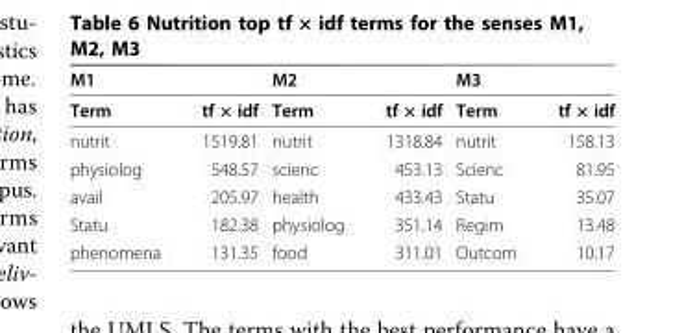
<table><thead><tr><td colspan="2">M1</td><td colspan="2">M2</td><td colspan="2">M3</td></tr><tr><td>Term</td><td>tf × idf</td><td>Term</td><td>tf × idf</td><td>Term</td><td>tf × idf</td></tr></thead><tbody><tr><td>nutrit</td><td>1519.81</td><td>nutrit</td><td>1318.84</td><td>nutrit</td><td>158.13</td></tr><tr><td>physiolog</td><td>548.57</td><td>scienc</td><td>453.13</td><td>Scienc</td><td>81.95</td></tr><tr><td>avail</td><td>205.97</td><td>health</td><td>433.43</td><td>Statu</td><td>35.07</td></tr><tr><td>Statu</td><td>182.38</td><td>physiolog</td><td>351.14</td><td>Regim</td><td>13.48</td></tr><tr><td>phenomena</td><td>131.35</td><td>food</td><td>311.01</td><td>Outcom</td><td>10.17</td></tr></tbody></table>